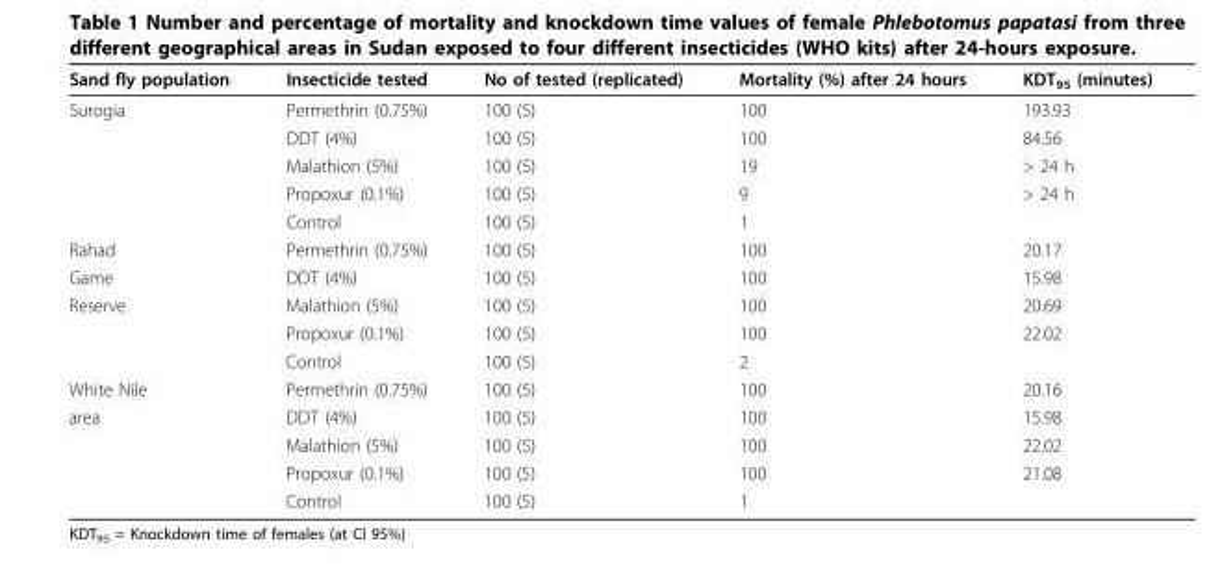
<table><thead><tr><td>Sand fly population</td><td>Insecticide tested</td><td>No of tested (replicated)</td><td>Mortality (%) after 24 hours</td><td>KDT<sub>95</sub> (minutes)</td></tr></thead><tbody><tr><td rowspan="5">Surogia</td><td>Permethrin (0.75%)</td><td>100 (5)</td><td>100</td><td>193.93</td></tr><tr><td>DDT (4%)</td><td>100 (5)</td><td>100</td><td>84.56</td></tr><tr><td>Malathion (5%)</td><td>100 (5)</td><td>19</td><td>&gt; 24 h</td></tr><tr><td>Propoxur (0.1%)</td><td>100 (5)</td><td>9</td><td>&gt; 24 h</td></tr><tr><td>Control</td><td>100 (5)</td><td>1</td><td></td></tr><tr><td>Rahad</td><td>Permethrin (0.75%)</td><td>100 (5)</td><td>100</td><td>20.17</td></tr><tr><td>Game</td><td>DDT (4%)</td><td>100 (5)</td><td>100</td><td>15.98</td></tr><tr><td rowspan="3">Reserve</td><td>Malathion (5%)</td><td>100 (5)</td><td>100</td><td>20.69</td></tr><tr><td>Propoxur (0.1%)</td><td>100 (5)</td><td>100</td><td>22.02</td></tr><tr><td>Control</td><td>100 (5)</td><td>2</td><td></td></tr><tr><td>White Nile</td><td>Permethrin (0.75%)</td><td>100 (5)</td><td>100</td><td>20.16</td></tr><tr><td rowspan="4">area</td><td>DDT (4%)</td><td>100 (5)</td><td>100</td><td>15.98</td></tr><tr><td>Malathion (5%)</td><td>100 (5)</td><td>100</td><td>22.02</td></tr><tr><td>Propoxur (0.1%)</td><td>100 (5)</td><td>100</td><td>21.08</td></tr><tr><td>Control</td><td>100 (5)</td><td>1</td><td></td></tr></tbody></table>